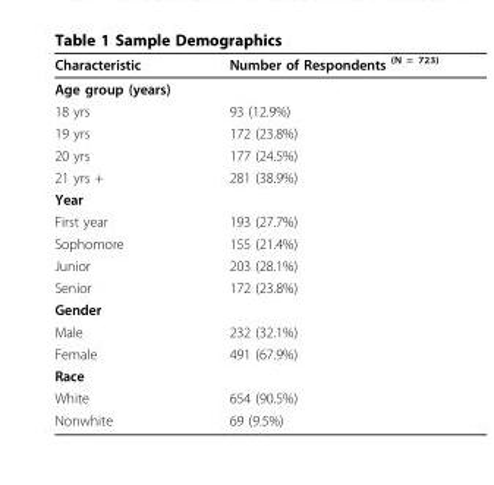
<table><thead><tr><td>Characteristic</td><td>Number of Respondents <sup>(N = 723)</sup></td></tr></thead><tbody><tr><td colspan="2">Age group (years)</td></tr><tr><td>18 yrs</td><td>93 (12.9%)</td></tr><tr><td>19 yrs</td><td>172 (23.8%)</td></tr><tr><td>20 yrs</td><td>177 (24.5%)</td></tr><tr><td>21 yrs +</td><td>281 (38.9%)</td></tr><tr><td colspan="2">Year</td></tr><tr><td>First year</td><td>193 (27.7%)</td></tr><tr><td>Sophomore</td><td>155 (21.4%)</td></tr><tr><td>Junior</td><td>203 (28.1%)</td></tr><tr><td>Senior</td><td>172 (23.8%)</td></tr><tr><td colspan="2">Gender</td></tr><tr><td>Male</td><td>232 (32.1%)</td></tr><tr><td>Female</td><td>491 (67.9%)</td></tr><tr><td colspan="2">Race</td></tr><tr><td>White</td><td>654 (90.5%)</td></tr><tr><td>Nonwhite</td><td>69 (9.5%)</td></tr></tbody></table>